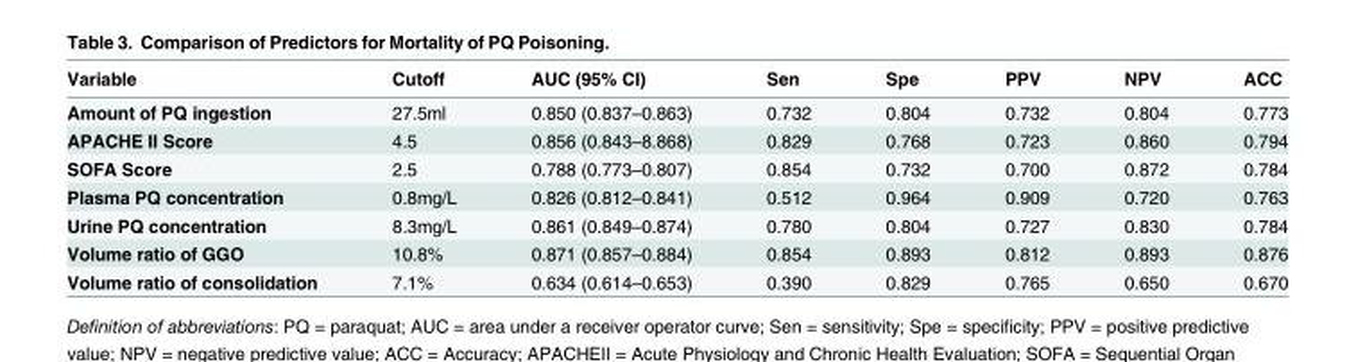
<table><thead><tr><td>Variable</td><td>Cutoff</td><td>AUC (95% CI)</td><td>Sen</td><td>Spe</td><td>PPV</td><td>NPV</td><td>ACC</td></tr></thead><tbody><tr><td>Amount of PQ ingestion</td><td>27.5ml</td><td>0.850 (0.837–0.863)</td><td>0.732</td><td>0.804</td><td>0.732</td><td>0.804</td><td>0.773</td></tr><tr><td>APACHE II Score</td><td>4.5</td><td>0.856 (0.843–8.868)</td><td>0.829</td><td>0.768</td><td>0.723</td><td>0.860</td><td>0.794</td></tr><tr><td>SOFA Score</td><td>2.5</td><td>0.788 (0.773–0.807)</td><td>0.854</td><td>0.732</td><td>0.700</td><td>0.872</td><td>0.784</td></tr><tr><td>Plasma PQ concentration</td><td>0.8mg/L</td><td>0.826 (0.812–0.841)</td><td>0.512</td><td>0.964</td><td>0.909</td><td>0.720</td><td>0.763</td></tr><tr><td>Urine PQ concentration</td><td>8.3mg/L</td><td>0.861 (0.849–0.874)</td><td>0.780</td><td>0.804</td><td>0.727</td><td>0.830</td><td>0.784</td></tr><tr><td>Volume ratio of GGO</td><td>10.8%</td><td>0.871 (0.857–0.884)</td><td>0.854</td><td>0.893</td><td>0.812</td><td>0.893</td><td>0.876</td></tr><tr><td>Volume ratio of consolidation</td><td>7.1%</td><td>0.634 (0.614–0.653)</td><td>0.390</td><td>0.829</td><td>0.765</td><td>0.650</td><td>0.670</td></tr></tbody></table>